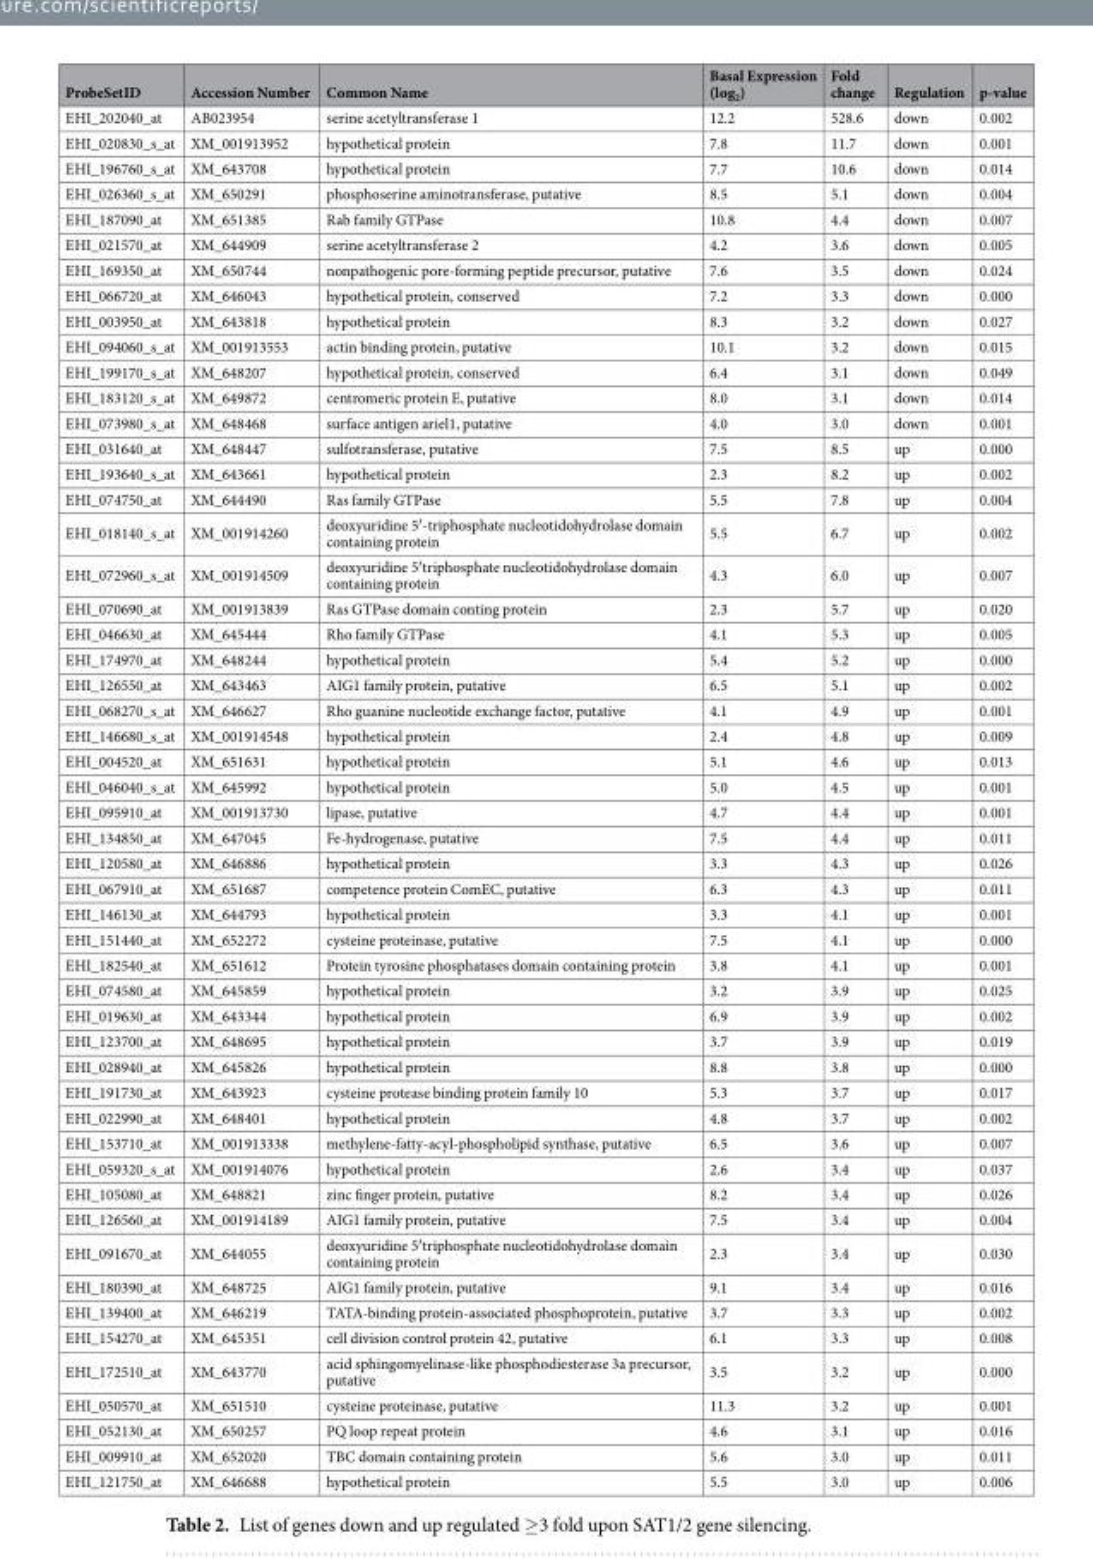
<table><thead><tr><td>ProbeSetID</td><td>Accession Number</td><td>Common Name</td><td>Basal Expression (log<sub>2</sub>)</td><td>Fold change</td><td>Regulation</td><td>p-value</td></tr></thead><tbody><tr><td>EHI_202040_at</td><td>AB023954</td><td>serine acetyltransferase 1</td><td>12.2</td><td>528.6</td><td>down</td><td>0.002</td></tr><tr><td>EHI_020830_s_at</td><td>XM_001913952</td><td>hypothetical protein</td><td>7.8</td><td>11.7</td><td>down</td><td>0.001</td></tr><tr><td>EHI_196760_s_at</td><td>XM_643708</td><td>hypothetical protein</td><td>7.7</td><td>10.6</td><td>down</td><td>0.014</td></tr><tr><td>EHI_026360_s_at</td><td>XM_650291</td><td>phosphoserine aminotransferase, putative</td><td>8.5</td><td>5.1</td><td>down</td><td>0.004</td></tr><tr><td>EHI_187090_at</td><td>XM_651385</td><td>Rab family GTPase</td><td>10.8</td><td>4.4</td><td>down</td><td>0.007</td></tr><tr><td>EHI_021570_at</td><td>XM_644909</td><td>serine acetyltransferase 2</td><td>4.2</td><td>3.6</td><td>down</td><td>0.005</td></tr><tr><td>EHI_169350_at</td><td>XM_650744</td><td>nonpathogenic pore-forming peptide precursor, putative</td><td>7.6</td><td>3.5</td><td>down</td><td>0.024</td></tr><tr><td>EHI_066720_at</td><td>XM_646043</td><td>hypothetical protein, conserved</td><td>7.2</td><td>3.3</td><td>down</td><td>0.000</td></tr><tr><td>EHI_003950_at</td><td>XM_643818</td><td>hypothetical protein</td><td>8.3</td><td>3.2</td><td>down</td><td>0.027</td></tr><tr><td>EHI_094060_s_at</td><td>XM_001913553</td><td>actin binding protein, putative</td><td>10.1</td><td>3.2</td><td>down</td><td>0.015</td></tr><tr><td>EHI_199170_s_at</td><td>XM_648207</td><td>hypothetical protein, conserved</td><td>6.4</td><td>3.1</td><td>down</td><td>0.049</td></tr><tr><td>EHI_183120_s_at</td><td>XM_649872</td><td>centromeric protein E, putative</td><td>8.0</td><td>3.1</td><td>down</td><td>0.014</td></tr><tr><td>EHI_073980_s_at</td><td>XM_648468</td><td>surface antigen ariel1, putative</td><td>4.0</td><td>3.0</td><td>down</td><td>0.001</td></tr><tr><td>EHI_031640_at</td><td>XM_648447</td><td>sulfotransferase, putative</td><td>7.5</td><td>8.5</td><td>up</td><td>0.000</td></tr><tr><td>EHI_193640_s_at</td><td>XM_643661</td><td>hypothetical protein</td><td>2.3</td><td>8.2</td><td>up</td><td>0.002</td></tr><tr><td>EHI_074750_at</td><td>XM_644490</td><td>Ras family GTPase</td><td>5.5</td><td>7.8</td><td>up</td><td>0.004</td></tr><tr><td>EHI_018140_s_at</td><td>XM_001914260</td><td>deoxyuridine 5′-triphosphate nucleotidohydrolase domain containing protein</td><td>5.5</td><td>6.7</td><td>up</td><td>0.002</td></tr><tr><td>EHI_072960_s_at</td><td>XM_001914509</td><td>deoxyuridine 5′triphosphate nucleotidohydrolase domain containing protein</td><td>4.3</td><td>6.0</td><td>up</td><td>0.007</td></tr><tr><td>EHI_070690_at</td><td>XM_001913839</td><td>Ras GTPase domain conting protein</td><td>2.3</td><td>5.7</td><td>up</td><td>0.020</td></tr><tr><td>EHI_046630_at</td><td>XM_645444</td><td>Rho family GTPase</td><td>4.1</td><td>5.3</td><td>up</td><td>0.005</td></tr><tr><td>EHI_174970_at</td><td>XM_648244</td><td>hypothetical protein</td><td>5.4</td><td>5.2</td><td>up</td><td>0.000</td></tr><tr><td>EHI_126550_at</td><td>XM_643463</td><td>AIG1 family protein, putative</td><td>6.5</td><td>5.1</td><td>up</td><td>0.002</td></tr><tr><td>EHI_068270_s_at</td><td>XM_646627</td><td>Rho guanine nucleotide exchange factor, putative</td><td>4.1</td><td>4.9</td><td>up</td><td>0.001</td></tr><tr><td>EHI_146680_s_at</td><td>XM_001914548</td><td>hypothetical protein</td><td>2.4</td><td>4.8</td><td>up</td><td>0.009</td></tr><tr><td>EHI_004520_at</td><td>XM_651631</td><td>hypothetical protein</td><td>5.1</td><td>4.6</td><td>up</td><td>0.013</td></tr><tr><td>EHI_046040_s_at</td><td>XM_645992</td><td>hypothetical protein</td><td>5.0</td><td>4.5</td><td>up</td><td>0.001</td></tr><tr><td>EHI_095910_at</td><td>XM_001913730</td><td>lipase, putative</td><td>4.7</td><td>4.4</td><td>up</td><td>0.001</td></tr><tr><td>EHI_134850_at</td><td>XM_647045</td><td>Fe-hydrogenase, putative</td><td>7.5</td><td>4.4</td><td>up</td><td>0.011</td></tr><tr><td>EHI_120580_at</td><td>XM_646886</td><td>hypothetical protein</td><td>3.3</td><td>4.3</td><td>up</td><td>0.026</td></tr><tr><td>EHI_067910_at</td><td>XM_651687</td><td>competence protein ComEC, putative</td><td>6.3</td><td>4.3</td><td>up</td><td>0.011</td></tr><tr><td>EHI_146130_at</td><td>XM_644793</td><td>hypothetical protein</td><td>3.3</td><td>4.1</td><td>up</td><td>0.001</td></tr><tr><td>EHI_151440_at</td><td>XM_652272</td><td>cysteine proteinase, putative</td><td>7.5</td><td>4.1</td><td>up</td><td>0.000</td></tr><tr><td>EHI_182540_at</td><td>XM_651612</td><td>Protein tyrosine phosphatases domain containing protein</td><td>3.8</td><td>4.1</td><td>up</td><td>0.001</td></tr><tr><td>EHI_074580_at</td><td>XM_645859</td><td>hypothetical protein</td><td>3.2</td><td>3.9</td><td>up</td><td>0.025</td></tr><tr><td>EHI_019630_at</td><td>XM_643344</td><td>hypothetical protein</td><td>6.9</td><td>3.9</td><td>up</td><td>0.002</td></tr><tr><td>EHI_123700_at</td><td>XM_648695</td><td>hypothetical protein</td><td>3.7</td><td>3.9</td><td>up</td><td>0.019</td></tr><tr><td>EHI_028940_at</td><td>XM_645826</td><td>hypothetical protein</td><td>8.8</td><td>3.8</td><td>up</td><td>0.000</td></tr><tr><td>EHI_191730_at</td><td>XM_643923</td><td>cysteine protease binding protein family 10</td><td>5.3</td><td>3.7</td><td>up</td><td>0.017</td></tr><tr><td>EHI_022990_at</td><td>XM_648401</td><td>hypothetical protein</td><td>4.8</td><td>3.7</td><td>up</td><td>0.002</td></tr><tr><td>EHI_153710_at</td><td>XM_001913338</td><td>methylene-fatty-acyl-phospholipid synthase, putative</td><td>6.5</td><td>3.6</td><td>up</td><td>0.007</td></tr><tr><td>EHI_059320_s_at</td><td>XM_001914076</td><td>hypothetical protein</td><td>2.6</td><td>3.4</td><td>up</td><td>0.037</td></tr><tr><td>EHI_105080_at</td><td>XM_648821</td><td>zinc finger protein, putative</td><td>8.2</td><td>3.4</td><td>up</td><td>0.026</td></tr><tr><td>EHI_126560_at</td><td>XM_001914189</td><td>AIG1 family protein, putative</td><td>7.5</td><td>3.4</td><td>up</td><td>0.004</td></tr><tr><td>EHI_091670_at</td><td>XM_644055</td><td>deoxyuridine 5′triphosphate nucleotidohydrolase domain containing protein</td><td>2.3</td><td>3.4</td><td>up</td><td>0.030</td></tr><tr><td>EHI_180390_at</td><td>XM_648725</td><td>AIG1 family protein, putative</td><td>9.1</td><td>3.4</td><td>up</td><td>0.016</td></tr><tr><td>EHI_139400_at</td><td>XM_646219</td><td>TATA-binding protein-associated phosphoprotein, putative</td><td>3.7</td><td>3.3</td><td>up</td><td>0.002</td></tr><tr><td>EHI_154270_at</td><td>XM_645351</td><td>cell division control protein 42, putative</td><td>6.1</td><td>3.3</td><td>up</td><td>0.008</td></tr><tr><td>EHI_172510_at</td><td>XM_643770</td><td>acid sphingomyelinase-like phosphodiesterase 3a precursor, putative</td><td>3.5</td><td>3.2</td><td>up</td><td>0.000</td></tr><tr><td>EHI_050570_at</td><td>XM_651510</td><td>cysteine proteinase, putative</td><td>11.3</td><td>3.2</td><td>up</td><td>0.001</td></tr><tr><td>EHI_052130_at</td><td>XM_650257</td><td>PQ loop repeat protein</td><td>4.6</td><td>3.1</td><td>up</td><td>0.016</td></tr><tr><td>EHI_009910_at</td><td>XM_652020</td><td>TBC domain containing protein</td><td>5.6</td><td>3.0</td><td>up</td><td>0.011</td></tr><tr><td>EHI_121750_at</td><td>XM_646688</td><td>hypothetical protein</td><td>5.5</td><td>3.0</td><td>up</td><td>0.006</td></tr></tbody></table>